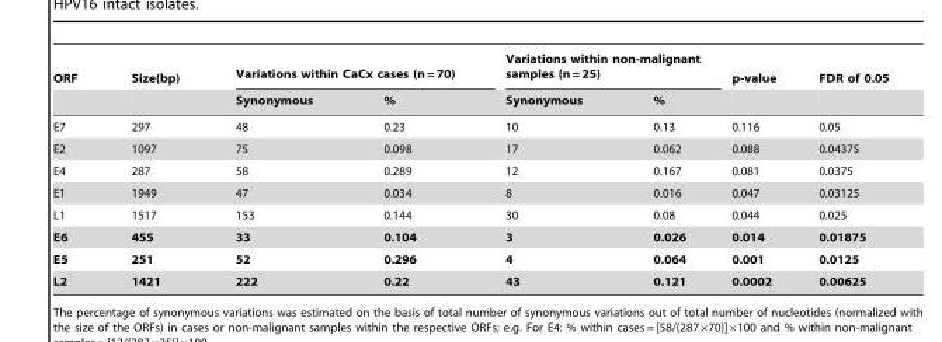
<table><thead><tr><td rowspan="2">ORF</td><td rowspan="2">Size(bp)</td><td colspan="2">Variations within CaCx cases (n = 70)</td><td colspan="2">Variations within non-malignant samples (n = 25)</td><td rowspan="2">p-value</td><td rowspan="2">FDR of 0.05</td></tr><tr><td>Synonymous</td><td>%</td><td>Synonymous</td><td>%</td></tr></thead><tbody><tr><td>E7</td><td>297</td><td>48</td><td>0.23</td><td>10</td><td>0.13</td><td>0.116</td><td>0.05</td></tr><tr><td>E2</td><td>1097</td><td>75</td><td>0.098</td><td>17</td><td>0.062</td><td>0.088</td><td>0.04375</td></tr><tr><td>E4</td><td>287</td><td>58</td><td>0.289</td><td>12</td><td>0.167</td><td>0.081</td><td>0.0375</td></tr><tr><td>E1</td><td>1949</td><td>47</td><td>0.034</td><td>8</td><td>0.016</td><td>0.047</td><td>0.03125</td></tr><tr><td>L1</td><td>1517</td><td>153</td><td>0.144</td><td>30</td><td>0.08</td><td>0.044</td><td>0.025</td></tr><tr><td>E6</td><td>455</td><td>33</td><td>0.104</td><td>3</td><td>0.026</td><td>0.014</td><td>0.01875</td></tr><tr><td>E5</td><td>251</td><td>52</td><td>0.296</td><td>4</td><td>0.064</td><td>0.001</td><td>0.0125</td></tr><tr><td>L2</td><td>1421</td><td>222</td><td>0.22</td><td>43</td><td>0.121</td><td>0.0002</td><td>0.00625</td></tr></tbody></table>